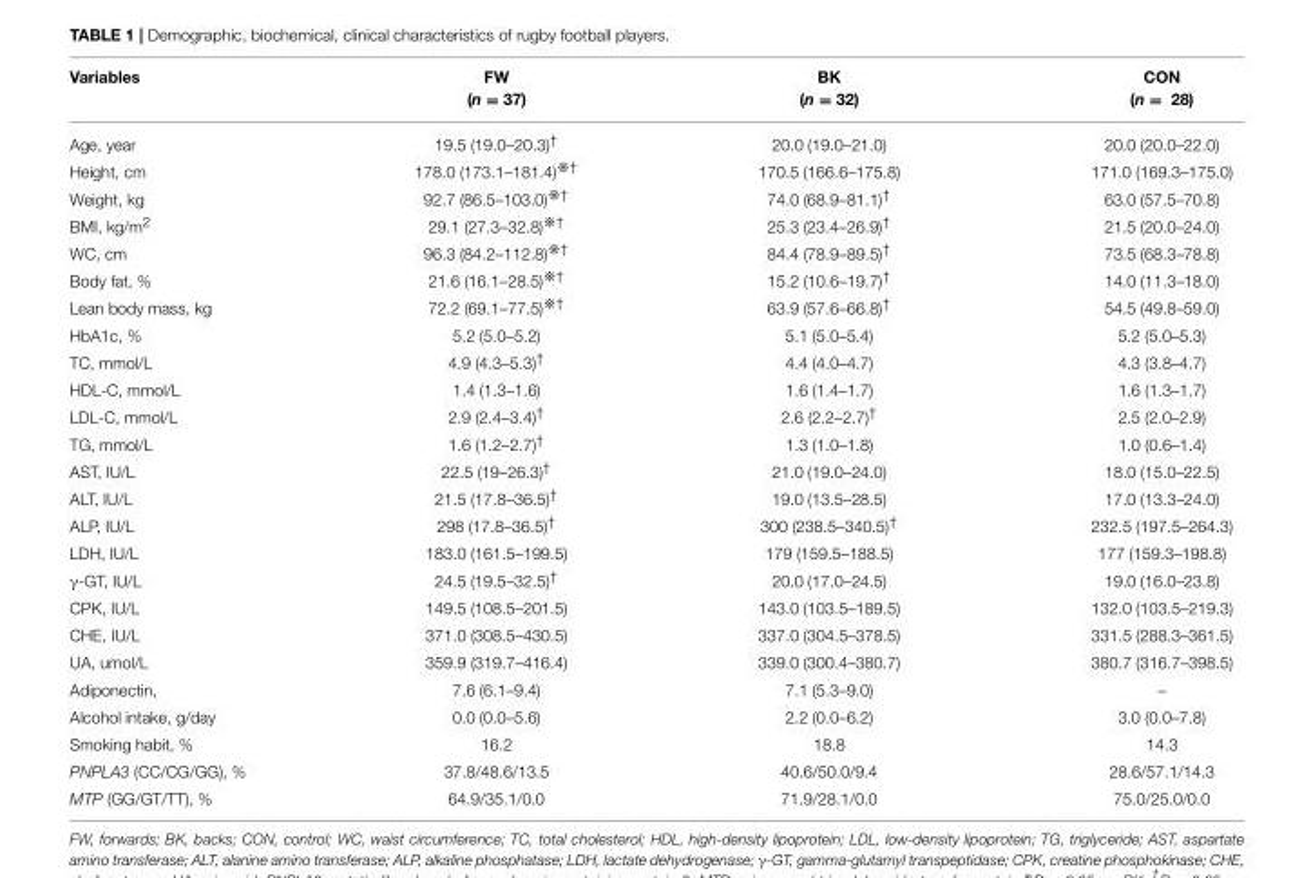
<table><thead><tr><td>Variables</td><td>FW (n = 37)</td><td>BK (n = 32)</td><td>CON (n = 28)</td></tr></thead><tbody><tr><td>Age, year</td><td>19.5 (19.0–20.3)<sup>†</sup></td><td>20.0 (19.0–21.0)</td><td>20.0 (20.0–22.0)</td></tr><tr><td>Height, cm</td><td>178.0 (173.1–181.4)<sup>※†</sup></td><td>170.5 (166.6–175.8)</td><td>171.0 (169.3–175.0)</td></tr><tr><td>Weight, kg</td><td>92.7 (86.5–103.0)<sup>※†</sup></td><td>74.0 (68.9–81.1)<sup>†</sup></td><td>63.0 (57.5–70.8)</td></tr><tr><td>BMI, kg/m<sup>2</sup></td><td>29.1 (27.3–32.8)<sup>※†</sup></td><td>25.3 (23.4–26.9)<sup>†</sup></td><td>21.5 (20.0–24.0)</td></tr><tr><td>WC, cm</td><td>96.3 (84.2–112.8)<sup>※†</sup></td><td>84.4 (78.9–89.5)<sup>†</sup></td><td>73.5 (68.3–78.8)</td></tr><tr><td>Body fat, %</td><td>21.6 (16.1–28.5)<sup>※†</sup></td><td>15.2 (10.6–19.7)<sup>†</sup></td><td>14.0 (11.3–18.0)</td></tr><tr><td>Lean body mass, kg</td><td>72.2 (69.1–77.5)<sup>※†</sup></td><td>63.9 (57.6–66.8)<sup>†</sup></td><td>54.5 (49.8–59.0)</td></tr><tr><td>HbA1c, %</td><td>5.2 (5.0–5.2)</td><td>5.1 (5.0–5.4)</td><td>5.2 (5.0–5.3)</td></tr><tr><td>TC, mmol/L</td><td>4.9 (4.3–5.3)<sup>†</sup></td><td>4.4 (4.0–4.7)</td><td>4.3 (3.8–4.7)</td></tr><tr><td>HDL-C, mmol/L</td><td>1.4 (1.3–1.6)</td><td>1.6 (1.4–1.7)</td><td>1.6 (1.3–1.7)</td></tr><tr><td>LDL-C, mmol/L</td><td>2.9 (2.4–3.4)<sup>†</sup></td><td>2.6 (2.2–2.7)<sup>†</sup></td><td>2.5 (2.0–2.9)</td></tr><tr><td>TG, mmol/L</td><td>1.6 (1.2–2.7)<sup>†</sup></td><td>1.3 (1.0–1.8)</td><td>1.0 (0.6–1.4)</td></tr><tr><td>AST, IU/L</td><td>22.5 (19–26.3)<sup>†</sup></td><td>21.0 (19.0–24.0)</td><td>18.0 (15.0–22.5)</td></tr><tr><td>ALT, IU/L</td><td>21.5 (17.8–36.5)<sup>†</sup></td><td>19.0 (13.5–28.5)</td><td>17.0 (13.3–24.0)</td></tr><tr><td>ALP, IU/L</td><td>298 (17.8–36.5)<sup>†</sup></td><td>300 (238.5–340.5)<sup>†</sup></td><td>232.5 (197.5–264.3)</td></tr><tr><td>LDH, IU/L</td><td>183.0 (161.5–199.5)</td><td>179 (159.5–188.5)</td><td>177 (159.3–198.8)</td></tr><tr><td>γ-GT, IU/L</td><td>24.5 (19.5–32.5)<sup>†</sup></td><td>20.0 (17.0–24.5)</td><td>19.0 (16.0–23.8)</td></tr><tr><td>CPK, IU/L</td><td>149.5 (108.5–201.5)</td><td>143.0 (103.5–189.5)</td><td>132.0 (103.5–219.3)</td></tr><tr><td>CHE, IU/L</td><td>371.0 (308.5–430.5)</td><td>337.0 (304.5–378.5)</td><td>331.5 (288.3–361.5)</td></tr><tr><td>UA, umol/L</td><td>359.9 (319.7–416.4)</td><td>339.0 (300.4–380.7)</td><td>380.7 (316.7–398.5)</td></tr><tr><td>Adiponectin,</td><td>7.6 (6.1–9.4)</td><td>7.1 (5.3–9.0)</td><td>–</td></tr><tr><td>Alcohol intake, g/day</td><td>0.0 (0.0–5.6)</td><td>2.2 (0.0–6.2)</td><td>3.0 (0.0–7.8)</td></tr><tr><td>Smoking habit, %</td><td>16.2</td><td>18.8</td><td>14.3</td></tr><tr><td>PNPLA3 (CC/CG/GG), %</td><td>37.8/48.6/13.5</td><td>40.6/50.0/9.4</td><td>28.6/57.1/14.3</td></tr><tr><td>MTP (GG/GT/TT), %</td><td>64.9/35.1/0.0</td><td>71.9/28.1/0.0</td><td>75.0/25.0/0.0</td></tr></tbody></table>